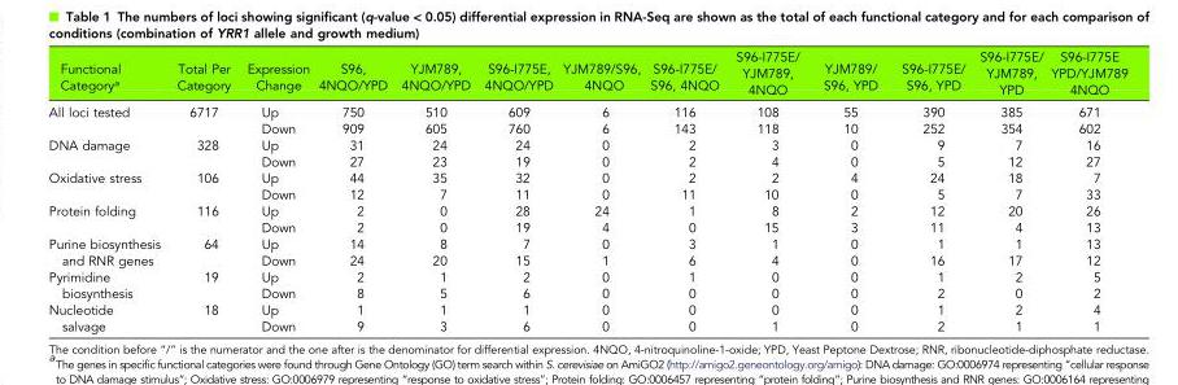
<table><thead><tr><td>Functional Category<sup>a</sup></td><td>Total Per Category</td><td>Expression Change</td><td>S96, 4NQO/YPD</td><td>YJM789, 4NQO/YPD</td><td>S96-I775E, 4NQO/YPD</td><td>YJM789/S96, 4NQO</td><td>S96-I775E/ S96, 4NQO</td><td>S96-I775E/ YJM789, 4NQO</td><td>YJM789/ S96, YPD</td><td>S96-I775E/ S96, YPD</td><td>S96-I775E/ YJM789, YPD</td><td>S96-I775E YPD/YJM789 4NQO</td></tr></thead><tbody><tr><td rowspan="2">All loci tested</td><td>6717</td><td>Up</td><td>750</td><td>510</td><td>609</td><td>6</td><td>116</td><td>108</td><td>55</td><td>390</td><td>385</td><td>671</td></tr><tr><td></td><td>Down</td><td>909</td><td>605</td><td>760</td><td>6</td><td>143</td><td>118</td><td>10</td><td>252</td><td>354</td><td>602</td></tr><tr><td rowspan="2">DNA damage</td><td>328</td><td>Up</td><td>31</td><td>24</td><td>24</td><td>0</td><td>2</td><td>3</td><td>0</td><td>9</td><td>7</td><td>16</td></tr><tr><td></td><td>Down</td><td>27</td><td>23</td><td>19</td><td>0</td><td>2</td><td>4</td><td>0</td><td>5</td><td>12</td><td>27</td></tr><tr><td rowspan="2">Oxidative stress</td><td>106</td><td>Up</td><td>44</td><td>35</td><td>32</td><td>0</td><td>2</td><td>2</td><td>4</td><td>24</td><td>18</td><td>7</td></tr><tr><td></td><td>Down</td><td>12</td><td>7</td><td>11</td><td>0</td><td>11</td><td>10</td><td>0</td><td>5</td><td>7</td><td>33</td></tr><tr><td rowspan="2">Protein folding</td><td>116</td><td>Up</td><td>2</td><td>0</td><td>28</td><td>24</td><td>1</td><td>8</td><td>2</td><td>12</td><td>20</td><td>26</td></tr><tr><td></td><td>Down</td><td>2</td><td>0</td><td>19</td><td>4</td><td>0</td><td>15</td><td>3</td><td>11</td><td>4</td><td>13</td></tr><tr><td rowspan="2">Purine biosynthesis and RNR genes</td><td>64</td><td>Up</td><td>14</td><td>8</td><td>7</td><td>0</td><td>3</td><td>1</td><td>0</td><td>1</td><td>1</td><td>13</td></tr><tr><td></td><td>Down</td><td>24</td><td>20</td><td>15</td><td>1</td><td>6</td><td>4</td><td>0</td><td>16</td><td>17</td><td>12</td></tr><tr><td rowspan="2">Pyrimidine biosynthesis</td><td>19</td><td>Up</td><td>2</td><td>1</td><td>2</td><td>0</td><td>1</td><td>0</td><td>0</td><td>1</td><td>2</td><td>5</td></tr><tr><td></td><td>Down</td><td>8</td><td>5</td><td>6</td><td>0</td><td>0</td><td>0</td><td>0</td><td>2</td><td>0</td><td>2</td></tr><tr><td rowspan="2">Nucleotide salvage</td><td>18</td><td>Up</td><td>1</td><td>1</td><td>1</td><td>0</td><td>0</td><td>0</td><td>0</td><td>1</td><td>2</td><td>4</td></tr><tr><td></td><td>Down</td><td>9</td><td>3</td><td>6</td><td>0</td><td>0</td><td>1</td><td>0</td><td>2</td><td>1</td><td>1</td></tr></tbody></table>